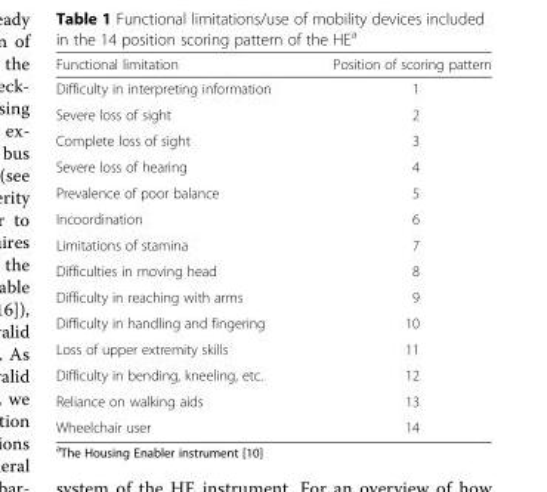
<table><thead><tr><td>Functional limitation</td><td>Position of scoring pattern</td></tr></thead><tbody><tr><td>Difficulty in interpreting information</td><td>1</td></tr><tr><td>Severe loss of sight</td><td>2</td></tr><tr><td>Complete loss of sight</td><td>3</td></tr><tr><td>Severe loss of hearing</td><td>4</td></tr><tr><td>Prevalence of poor balance</td><td>5</td></tr><tr><td>Incoordination</td><td>6</td></tr><tr><td>Limitations of stamina</td><td>7</td></tr><tr><td>Difficulties in moving head</td><td>8</td></tr><tr><td>Difficulty in reaching with arms</td><td>9</td></tr><tr><td>Difficulty in handling and fingering</td><td>10</td></tr><tr><td>Loss of upper extremity skills</td><td>11</td></tr><tr><td>Difficulty in bending, kneeling, etc.</td><td>12</td></tr><tr><td>Reliance on walking aids</td><td>13</td></tr><tr><td>Wheelchair user</td><td>14</td></tr></tbody></table>